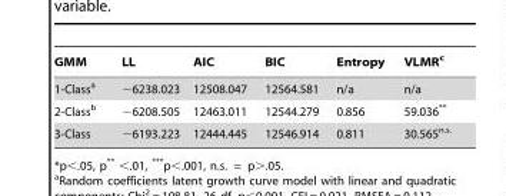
<table><thead><tr><td>GMM</td><td>LL</td><td>AIC</td><td>BIC</td><td>Entropy</td><td>VLMR<sup>c</sup></td></tr></thead><tbody><tr><td>1-Class<sup>a</sup></td><td>−6238.023</td><td>12508.047</td><td>12564.581</td><td>n/a</td><td>n/a</td></tr><tr><td>2-Class<sup>b</sup></td><td>−6208.505</td><td>12463.011</td><td>12544.279</td><td>0.856</td><td>59.036**</td></tr><tr><td>3-Class</td><td>−6193.223</td><td>12444.445</td><td>12546.914</td><td>0.811</td><td>30.565<sup>n.s.</sup></td></tr></tbody></table>